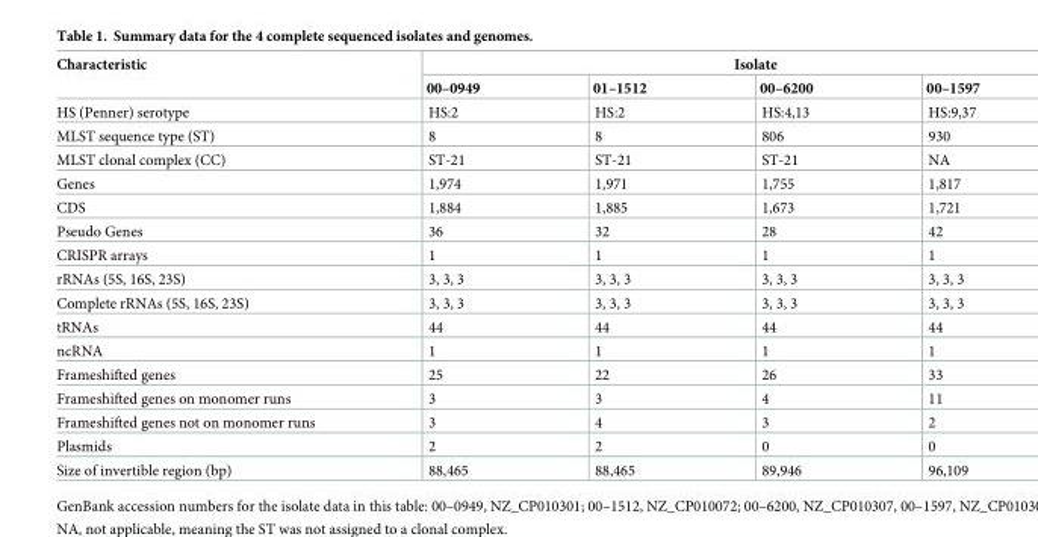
<table><thead><tr><td rowspan="2">Characteristic</td><td colspan="4">Isolate</td></tr><tr><td>00–0949</td><td>01–1512</td><td>00–6200</td><td>00–1597</td></tr></thead><tbody><tr><td>HS (Penner) serotype</td><td>HS:2</td><td>HS:2</td><td>HS:4,13</td><td>HS:9,37</td></tr><tr><td>MLST sequence type (ST)</td><td>8</td><td>8</td><td>806</td><td>930</td></tr><tr><td>MLST clonal complex (CC)</td><td>ST-21</td><td>ST-21</td><td>ST-21</td><td>NA</td></tr><tr><td>Genes</td><td>1,974</td><td>1,971</td><td>1,755</td><td>1,817</td></tr><tr><td>CDS</td><td>1,884</td><td>1,885</td><td>1,673</td><td>1,721</td></tr><tr><td>Pseudo Genes</td><td>36</td><td>32</td><td>28</td><td>42</td></tr><tr><td>CRISPR arrays</td><td>1</td><td>1</td><td>1</td><td>1</td></tr><tr><td>rRNAs (5S, 16S, 23S)</td><td>3, 3, 3</td><td>3, 3, 3</td><td>3, 3, 3</td><td>3, 3, 3</td></tr><tr><td>Complete rRNAs (5S, 16S, 23S)</td><td>3, 3, 3</td><td>3, 3, 3</td><td>3, 3, 3</td><td>3, 3, 3</td></tr><tr><td>tRNAs</td><td>44</td><td>44</td><td>44</td><td>44</td></tr><tr><td>ncRNA</td><td>1</td><td>1</td><td>1</td><td>1</td></tr><tr><td>Frameshifted genes</td><td>25</td><td>22</td><td>26</td><td>33</td></tr><tr><td>Frameshifted genes on monomer runs</td><td>3</td><td>3</td><td>4</td><td>11</td></tr><tr><td>Frameshifted genes not on monomer runs</td><td>3</td><td>4</td><td>3</td><td>2</td></tr><tr><td>Plasmids</td><td>2</td><td>2</td><td>0</td><td>0</td></tr><tr><td>Size of invertible region (bp)</td><td>88,465</td><td>88,465</td><td>89,946</td><td>96,109</td></tr></tbody></table>